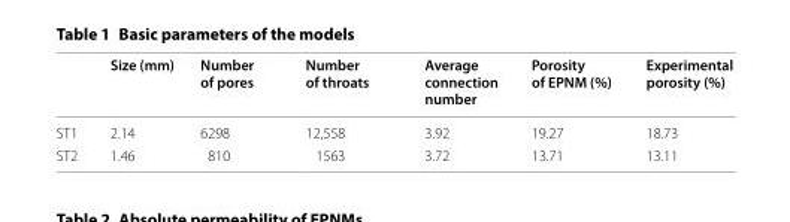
<table><thead><tr><td></td><td>Size (mm)</td><td>Number of pores</td><td>Number of throats</td><td>Average connection number</td><td>Porosity of EPNM (%)</td><td>Experimental porosity (%)</td></tr></thead><tbody><tr><td>ST1</td><td>2.14</td><td>6298</td><td>12,558</td><td>3.92</td><td>19.27</td><td>18.73</td></tr><tr><td>ST2</td><td>1.46</td><td>810</td><td>1563</td><td>3.72</td><td>13.71</td><td>13.11</td></tr></tbody></table>